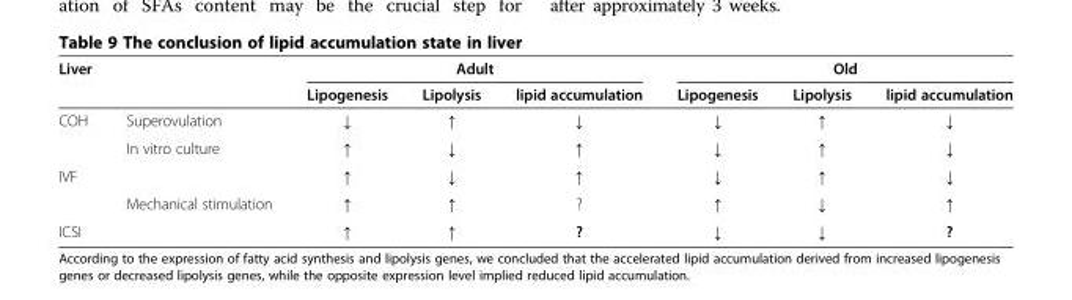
<table><thead><tr><td rowspan="2">Liver</td><td rowspan="2"></td><td colspan="3">Adult</td><td colspan="3">Old</td></tr><tr><td>Lipogenesis</td><td>Lipolysis</td><td>lipid accumulation</td><td>Lipogenesis</td><td>Lipolysis</td><td>lipid accumulation</td></tr></thead><tbody><tr><td rowspan="2">COH</td><td>Superovulation</td><td>↓</td><td>↑</td><td>↓</td><td>↓</td><td>↑</td><td>↓</td></tr><tr><td>In vitro culture</td><td>↑</td><td>↓</td><td>↑</td><td>↓</td><td>↑</td><td>↓</td></tr><tr><td rowspan="2">IVF</td><td></td><td>↑</td><td>↓</td><td>↑</td><td>↓</td><td>↑</td><td>↓</td></tr><tr><td>Mechanical stimulation</td><td>↑</td><td>↑</td><td>?</td><td>↑</td><td>↓</td><td>↑</td></tr><tr><td>ICSI</td><td></td><td>↑</td><td>↑</td><td>?</td><td>↓</td><td>↓</td><td>?</td></tr></tbody></table>